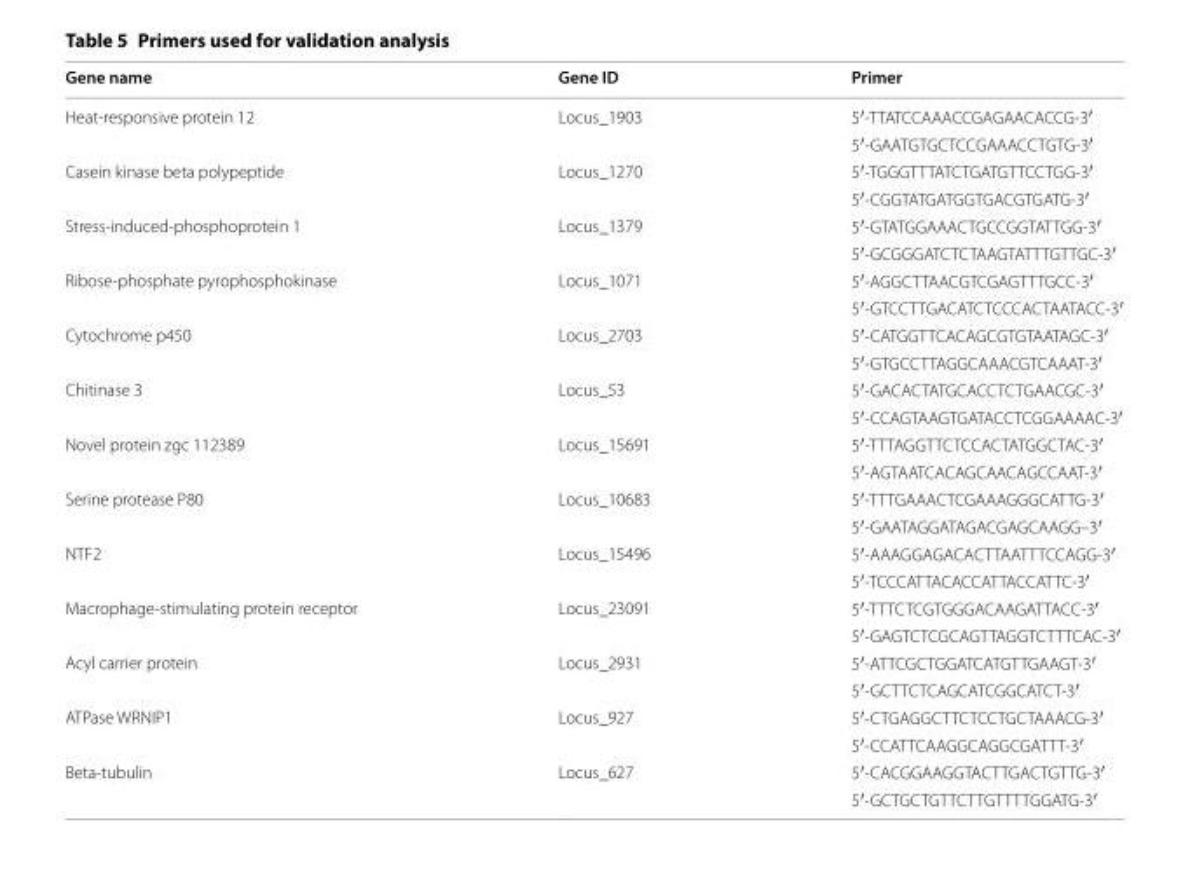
<table><thead><tr><td>Gene name</td><td>Gene ID</td><td>Primer</td></tr></thead><tbody><tr><td rowspan="2">Heat-responsive protein 12</td><td rowspan="2">Locus_1903</td><td>5′-TTATCCAAACCGAGAACACCG-3′</td></tr><tr><td>5′-GAATGTGCTCCGAAACCTGTG-3′</td></tr><tr><td rowspan="2">Casein kinase beta polypeptide</td><td rowspan="2">Locus_1270</td><td>5′-TGGGTTTATCTGATGTTCCTGG-3′</td></tr><tr><td>5′-CGGTATGATGGTGACGTGATG-3′</td></tr><tr><td rowspan="2">Stress-induced-phosphoprotein 1</td><td rowspan="2">Locus_1379</td><td>5′-GTATGGAAACTGCCGGTATTGG-3′</td></tr><tr><td>5′-GCGGGATCTCTAAGTATTTGTTGC-3′</td></tr><tr><td rowspan="2">Ribose-phosphate pyrophosphokinase</td><td rowspan="2">Locus_1071</td><td>5′-AGGCTTAACGTCGAGTTTGCC-3′</td></tr><tr><td>5′-GTCCTTGACATCTCCCACTAATACC-3′</td></tr><tr><td rowspan="2">Cytochrome p450</td><td rowspan="2">Locus_2703</td><td>5′-CATGGTTCACAGCGTGTAATAGC-3′</td></tr><tr><td>5′-GTGCCTTAGGCAAACGTCAAAT-3′</td></tr><tr><td rowspan="2">Chitinase 3</td><td rowspan="2">Locus_53</td><td>5′-GACACTATGCACCTCTGAACGC-3′</td></tr><tr><td>5′-CCAGTAAGTGATACCTCGGAAAAC-3′</td></tr><tr><td rowspan="2">Novel protein zgc 112389</td><td rowspan="2">Locus_15691</td><td>5′-TTTAGGTTCTCCACTATGGCTAC-3′</td></tr><tr><td>5′-AGTAATCACAGCAACAGCCAAT-3′</td></tr><tr><td rowspan="2">Serine protease P80</td><td rowspan="2">Locus_10683</td><td>5′-TTTGAAACTCGAAAGGGCATTG-3′</td></tr><tr><td>5′-GAATAGGATAGACGAGCAAGG–3′</td></tr><tr><td rowspan="2">NTF2</td><td rowspan="2">Locus_15496</td><td>5′-AAAGGAGACACTTAATTTCCAGG-3′</td></tr><tr><td>5′-TCCCATTACACCATTACCATTC-3′</td></tr><tr><td rowspan="2">Macrophage-stimulating protein receptor</td><td rowspan="2">Locus_23091</td><td>5′-TTTCTCGTGGGACAAGATTACC-3′</td></tr><tr><td>5′-GAGTCTCGCAGTTAGGTCTTTCAC-3′</td></tr><tr><td rowspan="2">Acyl carrier protein</td><td rowspan="2">Locus_2931</td><td>5′-ATTCGCTGGATCATGTTGAAGT-3′</td></tr><tr><td>5′-GCTTCTCAGCATCGGCATCT-3′</td></tr><tr><td rowspan="2">ATPase WRNIP1</td><td rowspan="2">Locus_927</td><td>5′-CTGAGGCTTCTCCTGCTAAACG-3′</td></tr><tr><td>5′-CCATTCAAGGCAGGCGATTT-3′</td></tr><tr><td rowspan="2">Beta-tubulin</td><td rowspan="2">Locus_627</td><td>5′-CACGGAAGGTACTTGACTGTTG-3′</td></tr><tr><td>5′-GCTGCTGTTCTTGTTTTGGATG-3′</td></tr></tbody></table>